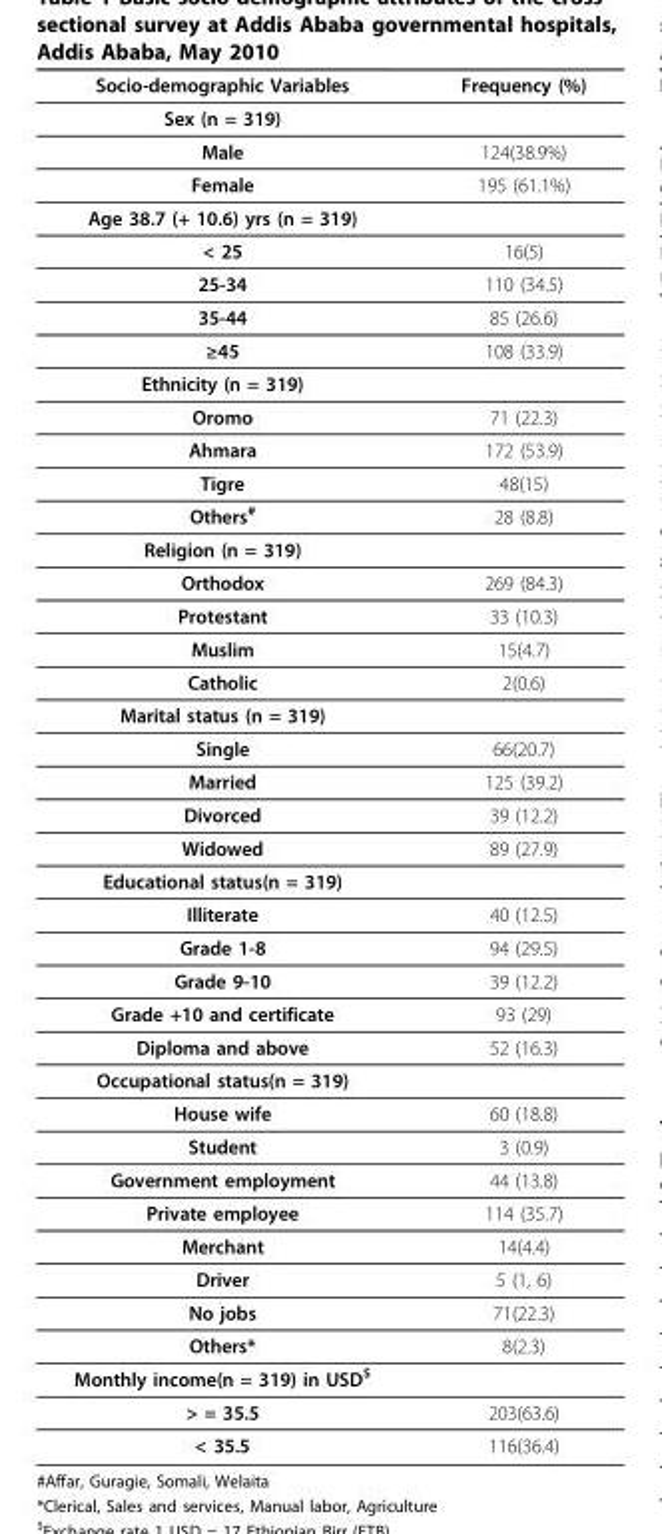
<table><thead><tr><td>Socio-demographic Variables</td><td>Frequency (%)</td></tr></thead><tbody><tr><td colspan="2">Sex (n = 319)</td></tr><tr><td>Male</td><td>124(38.9%)</td></tr><tr><td>Female</td><td>195 (61.1%)</td></tr><tr><td colspan="2">Age 38.7 (+ 10.6) yrs (n = 319)</td></tr><tr><td>&lt; 25</td><td>16(5)</td></tr><tr><td>25-34</td><td>110 (34.5)</td></tr><tr><td>35-44</td><td>85 (26.6)</td></tr><tr><td>≥45</td><td>108 (33.9)</td></tr><tr><td colspan="2">Ethnicity (n = 319)</td></tr><tr><td>Oromo</td><td>71 (22.3)</td></tr><tr><td>Ahmara</td><td>172 (53.9)</td></tr><tr><td>Tigre</td><td>48(15)</td></tr><tr><td>Others<sup>#</sup></td><td>28 (8.8)</td></tr><tr><td colspan="2">Religion (n = 319)</td></tr><tr><td>Orthodox</td><td>269 (84.3)</td></tr><tr><td>Protestant</td><td>33 (10.3)</td></tr><tr><td>Muslim</td><td>15(4.7)</td></tr><tr><td>Catholic</td><td>2(0.6)</td></tr><tr><td colspan="2">Marital status (n = 319)</td></tr><tr><td>Single</td><td>66(20.7)</td></tr><tr><td>Married</td><td>125 (39.2)</td></tr><tr><td>Divorced</td><td>39 (12.2)</td></tr><tr><td>Widowed</td><td>89 (27.9)</td></tr><tr><td colspan="2">Educational status(n = 319)</td></tr><tr><td>Illiterate</td><td>40 (12.5)</td></tr><tr><td>Grade 1-8</td><td>94 (29.5)</td></tr><tr><td>Grade 9-10</td><td>39 (12.2)</td></tr><tr><td>Grade +10 and certificate</td><td>93 (29)</td></tr><tr><td>Diploma and above</td><td>52 (16.3)</td></tr><tr><td colspan="2">Occupational status(n = 319)</td></tr><tr><td>House wife</td><td>60 (18.8)</td></tr><tr><td>Student</td><td>3 (0.9)</td></tr><tr><td>Government employment</td><td>44 (13.8)</td></tr><tr><td>Private employee</td><td>114 (35.7)</td></tr><tr><td>Merchant</td><td>14(4.4)</td></tr><tr><td>Driver</td><td>5 (1, 6)</td></tr><tr><td>No jobs</td><td>71(22.3)</td></tr><tr><td>Others*</td><td>8(2.3)</td></tr><tr><td colspan="2">Monthly income(n = 319) in USD<sup>$</sup></td></tr><tr><td>&gt; = 35.5</td><td>203(63.6)</td></tr><tr><td>&lt; 35.5</td><td>116(36.4)</td></tr></tbody></table>